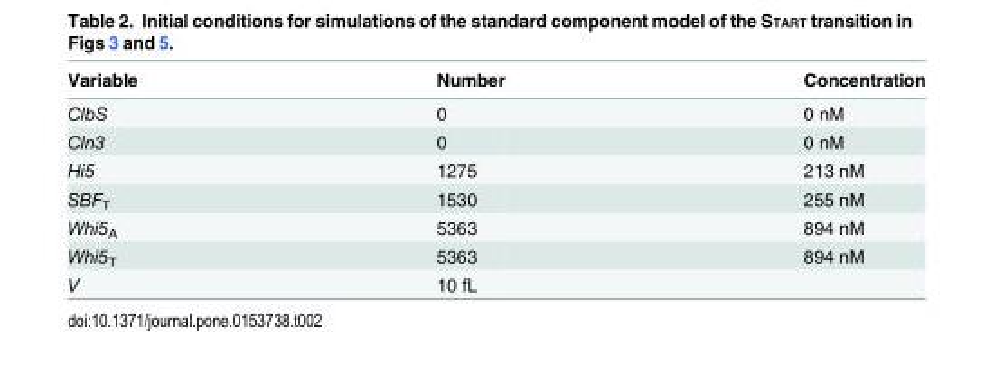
<table><thead><tr><td>Variable</td><td>Number</td><td>Concentration</td></tr></thead><tbody><tr><td>ClbS</td><td>0</td><td>0 nM</td></tr><tr><td>Cln3</td><td>0</td><td>0 nM</td></tr><tr><td>Hi5</td><td>1275</td><td>213 nM</td></tr><tr><td>SBF<sub>T</sub></td><td>1530</td><td>255 nM</td></tr><tr><td>Whi5<sub>A</sub></td><td>5363</td><td>894 nM</td></tr><tr><td>Whi5<sub>T</sub></td><td>5363</td><td>894 nM</td></tr><tr><td>V</td><td>10 fL</td><td></td></tr></tbody></table>